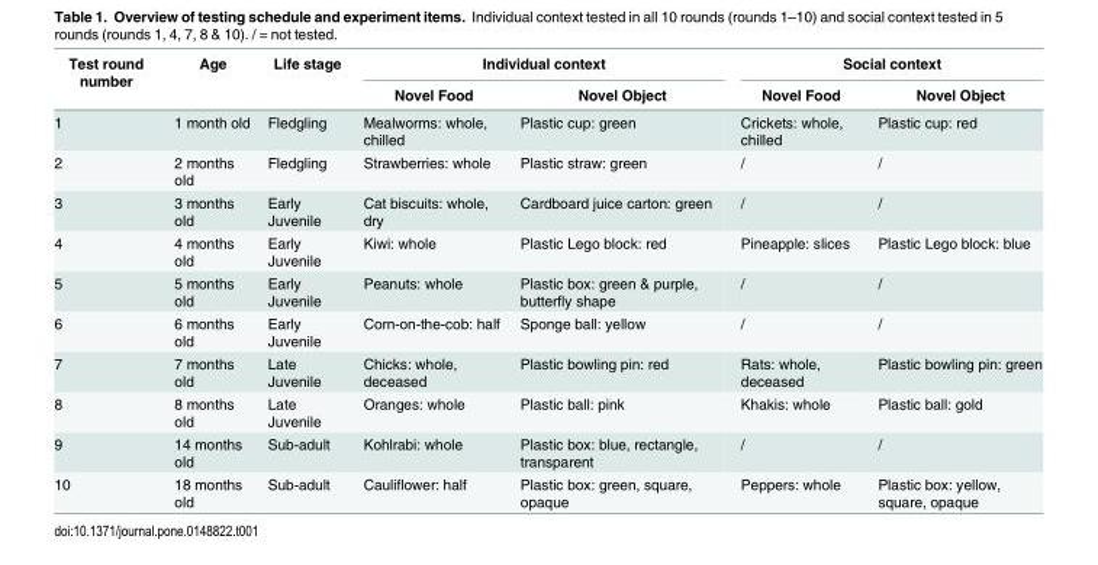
<table><thead><tr><td rowspan="2">Test round number</td><td rowspan="2">Age</td><td rowspan="2">Life stage</td><td colspan="2">Individual context</td><td colspan="2">Social context</td></tr><tr><td>Novel Food</td><td>Novel Object</td><td>Novel Food</td><td>Novel Object</td></tr></thead><tbody><tr><td>1</td><td>1 month old</td><td>Fledgling</td><td>Mealworms: whole, chilled</td><td>Plastic cup: green</td><td>Crickets: whole, chilled</td><td>Plastic cup: red</td></tr><tr><td>2</td><td>2 months old</td><td>Fledgling</td><td>Strawberries: whole</td><td>Plastic straw: green</td><td>/</td><td>/</td></tr><tr><td>3</td><td>3 months old</td><td>Early Juvenile</td><td>Cat biscuits: whole, dry</td><td>Cardboard juice carton: green</td><td>/</td><td>/</td></tr><tr><td>4</td><td>4 months old</td><td>Early Juvenile</td><td>Kiwi: whole</td><td>Plastic Lego block: red</td><td>Pineapple: slices</td><td>Plastic Lego block: blue</td></tr><tr><td>5</td><td>5 months old</td><td>Early Juvenile</td><td>Peanuts: whole</td><td>Plastic box: green &amp; purple, butterfly shape</td><td>/</td><td>/</td></tr><tr><td>6</td><td>6 months old</td><td>Early Juvenile</td><td>Corn-on-the-cob: half</td><td>Sponge ball: yellow</td><td>/</td><td>/</td></tr><tr><td>7</td><td>7 months old</td><td>Late Juvenile</td><td>Chicks: whole, deceased</td><td>Plastic bowling pin: red</td><td>Rats: whole, deceased</td><td>Plastic bowling pin: green</td></tr><tr><td>8</td><td>8 months old</td><td>Late Juvenile</td><td>Oranges: whole</td><td>Plastic ball: pink</td><td>Khakis: whole</td><td>Plastic ball: gold</td></tr><tr><td>9</td><td>14 months old</td><td>Sub-adult</td><td>Kohlrabi: whole</td><td>Plastic box: blue, rectangle, transparent</td><td>/</td><td>/</td></tr><tr><td>10</td><td>18 months old</td><td>Sub-adult</td><td>Cauliflower: half</td><td>Plastic box: green, square, opaque</td><td>Peppers: whole</td><td>Plastic box: yellow, square, opaque</td></tr></tbody></table>